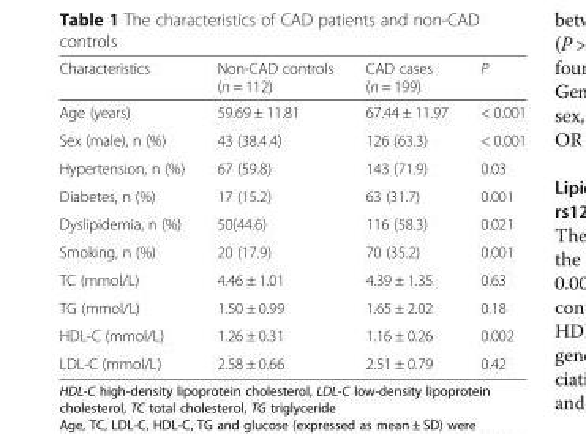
<table><thead><tr><td>Characteristics</td><td>Non-CAD controls (n = 112)</td><td>CAD cases (n = 199)</td><td>P</td></tr></thead><tbody><tr><td>Age (years)</td><td>59.69 ± 11.81</td><td>67.44 ± 11.97</td><td>&lt; 0.001</td></tr><tr><td>Sex (male), n (%)</td><td>43 (38.4.4)</td><td>126 (63.3)</td><td>&lt; 0.001</td></tr><tr><td>Hypertension, n (%)</td><td>67 (59.8)</td><td>143 (71.9)</td><td>0.03</td></tr><tr><td>Diabetes, n (%)</td><td>17 (15.2)</td><td>63 (31.7)</td><td>0.001</td></tr><tr><td>Dyslipidemia, n (%)</td><td>50(44.6)</td><td>116 (58.3)</td><td>0.021</td></tr><tr><td>Smoking, n (%)</td><td>20 (17.9)</td><td>70 (35.2)</td><td>0.001</td></tr><tr><td>TC (mmol/L)</td><td>4.46 ± 1.01</td><td>4.39 ± 1.35</td><td>0.63</td></tr><tr><td>TG (mmol/L)</td><td>1.50 ± 0.99</td><td>1.65 ± 2.02</td><td>0.18</td></tr><tr><td>HDL-C (mmol/L)</td><td>1.26 ± 0.31</td><td>1.16 ± 0.26</td><td>0.002</td></tr><tr><td>LDL-C (mmol/L)</td><td>2.58 ± 0.66</td><td>2.51 ± 0.79</td><td>0.42</td></tr></tbody></table>